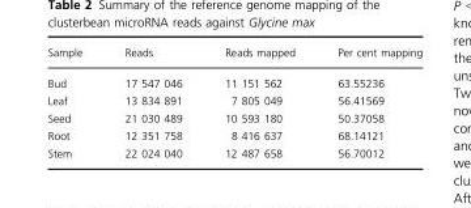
<table><thead><tr><td>Sample</td><td>Reads</td><td>Reads mapped</td><td>Per cent mapping</td></tr></thead><tbody><tr><td>Bud</td><td>17 547 046</td><td>11 151 562</td><td>63.55236</td></tr><tr><td>Leaf</td><td>13 834 891</td><td>7 805 049</td><td>56.41569</td></tr><tr><td>Seed</td><td>21 030 489</td><td>10 593 180</td><td>50.37058</td></tr><tr><td>Root</td><td>12 351 758</td><td>8 416 637</td><td>68.14121</td></tr><tr><td>Stem</td><td>22 024 040</td><td>12 487 658</td><td>56.70012</td></tr></tbody></table>